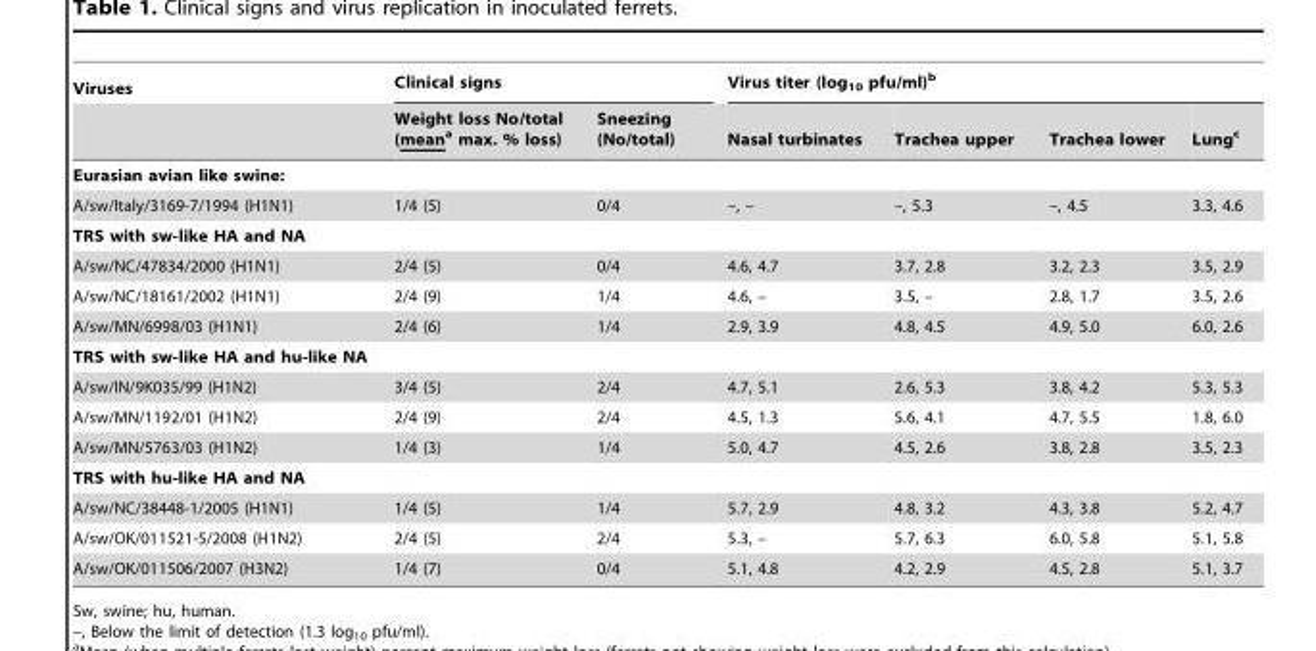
<table><thead><tr><td rowspan="2">Viruses</td><td colspan="2">Clinical signs</td><td colspan="4">Virus titer (log<sub>10</sub> pfu/ml)<sup>b</sup></td></tr><tr><td>Weight loss No/total (meana max. % loss)</td><td>Sneezing (No/total)</td><td>Nasal turbinates</td><td>Trachea upper</td><td>Trachea lower</td><td>Lung<sup>c</sup></td></tr></thead><tbody><tr><td colspan="7">Eurasian avian like swine:</td></tr><tr><td>A/sw/Italy/3169-7/1994 (H1N1)</td><td>1/4 (5)</td><td>0/4</td><td>–, –</td><td>–, 5.3</td><td>–, 4.5</td><td>3.3, 4.6</td></tr><tr><td colspan="7">TRS with sw-like HA and NA</td></tr><tr><td>A/sw/NC/47834/2000 (H1N1)</td><td>2/4 (5)</td><td>0/4</td><td>4.6, 4.7</td><td>3.7, 2.8</td><td>3.2, 2.3</td><td>3.5, 2.9</td></tr><tr><td>A/sw/NC/18161/2002 (H1N1)</td><td>2/4 (9)</td><td>1/4</td><td>4.6, –</td><td>3.5, –</td><td>2.8, 1.7</td><td>3.5, 2.6</td></tr><tr><td>A/sw/MN/6998/03 (H1N1)</td><td>2/4 (6)</td><td>1/4</td><td>2.9, 3.9</td><td>4.8, 4.5</td><td>4.9, 5.0</td><td>6.0, 2.6</td></tr><tr><td colspan="7">TRS with sw-like HA and hu-like NA</td></tr><tr><td>A/sw/IN/9K035/99 (H1N2)</td><td>3/4 (5)</td><td>2/4</td><td>4.7, 5.1</td><td>2.6, 5.3</td><td>3.8, 4.2</td><td>5.3, 5.3</td></tr><tr><td>A/sw/MN/1192/01 (H1N2)</td><td>2/4 (9)</td><td>2/4</td><td>4.5, 1.3</td><td>5.6, 4.1</td><td>4.7, 5.5</td><td>1.8, 6.0</td></tr><tr><td>A/sw/MN/5763/03 (H1N2)</td><td>1/4 (3)</td><td>1/4</td><td>5.0, 4.7</td><td>4.5, 2.6</td><td>3.8, 2.8</td><td>3.5, 2.3</td></tr><tr><td colspan="7">TRS with hu-like HA and NA</td></tr><tr><td>A/sw/NC/38448-1/2005 (H1N1)</td><td>1/4 (5)</td><td>1/4</td><td>5.7, 2.9</td><td>4.8, 3.2</td><td>4.3, 3.8</td><td>5.2, 4.7</td></tr><tr><td>A/sw/OK/011521-5/2008 (H1N2)</td><td>2/4 (5)</td><td>2/4</td><td>5.3, –</td><td>5.7, 6.3</td><td>6.0, 5.8</td><td>5.1, 5.8</td></tr><tr><td>A/sw/OK/011506/2007 (H3N2)</td><td>1/4 (7)</td><td>0/4</td><td>5.1, 4.8</td><td>4.2, 2.9</td><td>4.5, 2.8</td><td>5.1, 3.7</td></tr></tbody></table>